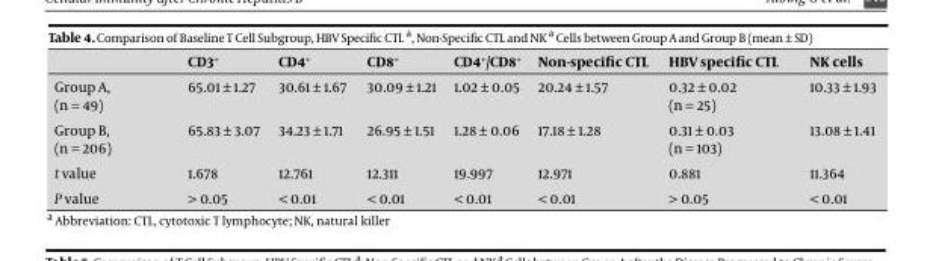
<table><thead><tr><td></td><td>CD3<sup>+</sup></td><td>CD4<sup>+</sup></td><td>CD8<sup>+</sup></td><td>CD4+/CD8<sup>+</sup></td><td>Non-specific CTL</td><td>HBV specific CTL</td><td>NK cells</td></tr></thead><tbody><tr><td>Group A, (n = 49)</td><td>65.01 ± 1.27</td><td>30.61 ± 1.67</td><td>30.09 ± 1.21</td><td>1.02 ± 0.05</td><td>20.24 ± 1.57</td><td>0.32 ± 0.02 (n = 25)</td><td>10.33 ± 1.93</td></tr><tr><td>Group B, (n = 206)</td><td>65.83 ± 3.07</td><td>34.23 ± 1.71</td><td>26.95 ± 1.51</td><td>1.28 ± 0.06</td><td>17.18 ± 1.28</td><td>0.31 ± 0.03 (n = 103)</td><td>13.08 ± 1.41</td></tr><tr><td>t value</td><td>1.678</td><td>12.761</td><td>12.311</td><td>19.997</td><td>12.971</td><td>0.881</td><td>11.364</td></tr><tr><td>P value</td><td>&gt; 0.05</td><td>&lt; 0.01</td><td>&lt; 0.01</td><td>&lt; 0.01</td><td>&lt; 0.01</td><td>&gt; 0.05</td><td>&lt; 0.01</td></tr></tbody></table>